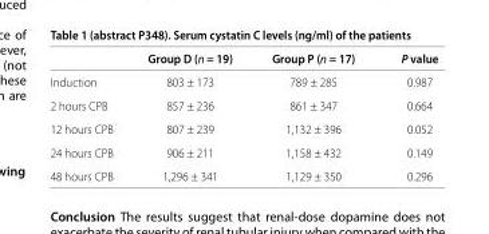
<table><thead><tr><td></td><td>Group D (n = 19)</td><td>Group P (n = 17)</td><td>P value</td></tr></thead><tbody><tr><td>Induction</td><td>803 ± 173</td><td>789 ± 285</td><td>0.987</td></tr><tr><td>2 hours CPB</td><td>857 ± 236</td><td>861 ± 347</td><td>0.664</td></tr><tr><td>12 hours CPB</td><td>807 ± 239</td><td>1,132 ± 396</td><td>0.052</td></tr><tr><td>24 hours CPB</td><td>906 ± 211</td><td>1,158 ± 432</td><td>0.149</td></tr><tr><td>48 hours CPB</td><td>1,296 ± 341</td><td>1,129 ± 350</td><td>0.296</td></tr></tbody></table>